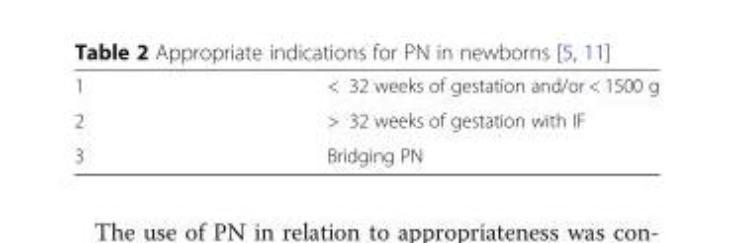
<table><tbody><tr><td>1</td><td>&lt; 32 weeks of gestation and/or &lt; 1500 g</td></tr><tr><td>2</td><td>&gt; 32 weeks of gestation with IF</td></tr><tr><td>3</td><td>Bridging PN</td></tr></tbody></table>